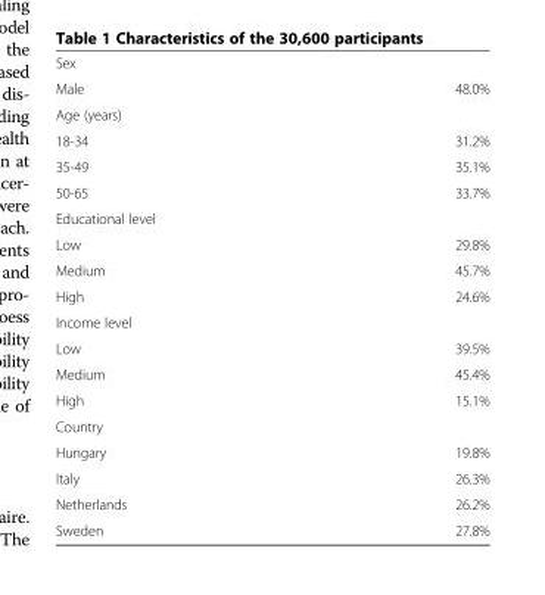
<table><tbody><tr><td colspan="2">Sex</td></tr><tr><td>Male</td><td>48.0%</td></tr><tr><td colspan="2">Age (years)</td></tr><tr><td>18-34</td><td>31.2%</td></tr><tr><td>35-49</td><td>35.1%</td></tr><tr><td>50-65</td><td>33.7%</td></tr><tr><td colspan="2">Educational level</td></tr><tr><td>Low</td><td>29.8%</td></tr><tr><td>Medium</td><td>45.7%</td></tr><tr><td>High</td><td>24.6%</td></tr><tr><td colspan="2">Income level</td></tr><tr><td>Low</td><td>39.5%</td></tr><tr><td>Medium</td><td>45.4%</td></tr><tr><td>High</td><td>15.1%</td></tr><tr><td colspan="2">Country</td></tr><tr><td>Hungary</td><td>19.8%</td></tr><tr><td>Italy</td><td>26.3%</td></tr><tr><td>Netherlands</td><td>26.2%</td></tr><tr><td>Sweden</td><td>27.8%</td></tr></tbody></table>